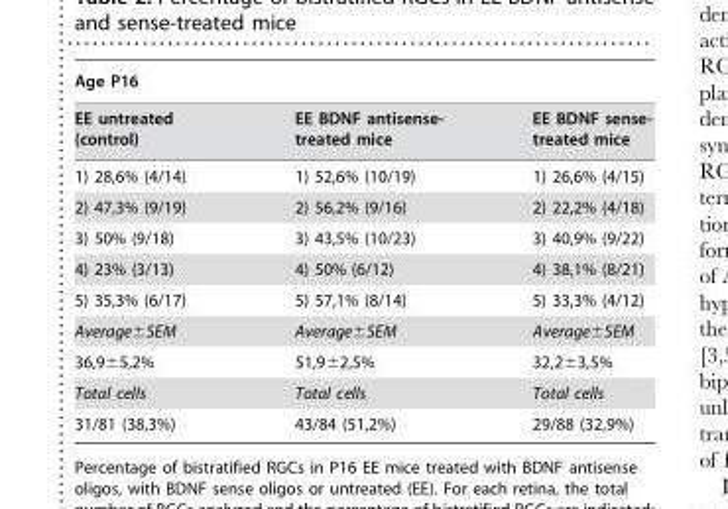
<table><thead><tr><td colspan="3">Age P16</td></tr><tr><td>EE untreated (control)</td><td>EE BDNF antisense- treated mice</td><td>EE BDNF sense- treated mice</td></tr></thead><tbody><tr><td>1) 28,6% (4/14)</td><td>1) 52,6% (10/19)</td><td>1) 26,6% (4/15)</td></tr><tr><td>2) 47,3% (9/19)</td><td>2) 56,2% (9/16)</td><td>2) 22,2% (4/18)</td></tr><tr><td>3) 50% (9/18)</td><td>3) 43,5% (10/23)</td><td>3) 40,9% (9/22)</td></tr><tr><td>4) 23% (3/13)</td><td>4) 50% (6/12)</td><td>4) 38,1% (8/21)</td></tr><tr><td>5) 35,3% (6/17)</td><td>5) 57,1% (8/14)</td><td>5) 33,3% (4/12)</td></tr><tr><td>Average±SEM</td><td>Average±SEM</td><td>Average±SEM</td></tr><tr><td>36,9±5,2%</td><td>51,9±2,5%</td><td>32,2±3,5%</td></tr><tr><td>Total cells</td><td>Total cells</td><td>Total cells</td></tr><tr><td>31/81 (38,3%)</td><td>43/84 (51,2%)</td><td>29/88 (32,9%)</td></tr></tbody></table>